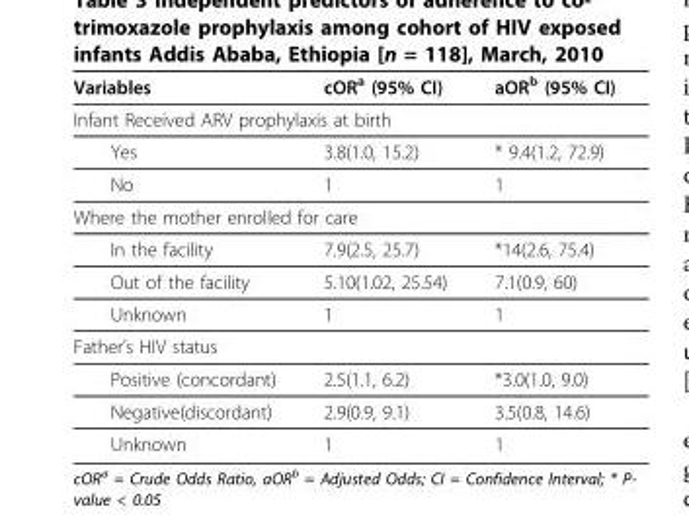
<table><thead><tr><td>Variables</td><td>cOR<sup>a</sup> (95% CI)</td><td>aOR<sup>b</sup> (95% CI)</td></tr></thead><tbody><tr><td colspan="3">Infant Received ARV prophylaxis at birth</td></tr><tr><td>Yes</td><td>3.8(1.0, 15.2)</td><td>* 9.4(1.2, 72.9)</td></tr><tr><td>No</td><td>1</td><td>1</td></tr><tr><td colspan="3">Where the mother enrolled for care</td></tr><tr><td>In the facility</td><td>7.9(2.5, 25.7)</td><td>*14(2.6, 75.4)</td></tr><tr><td>Out of the facility</td><td>5.10(1.02, 25.54)</td><td>7.1(0.9, 60)</td></tr><tr><td>Unknown</td><td>1</td><td>1</td></tr><tr><td colspan="3">Father’s HIV status</td></tr><tr><td>Positive (concordant)</td><td>2.5(1.1, 6.2)</td><td>*3.0(1.0, 9.0)</td></tr><tr><td>Negative(discordant)</td><td>2.9(0.9, 9.1)</td><td>3.5(0.8, 14.6)</td></tr><tr><td>Unknown</td><td>1</td><td>1</td></tr></tbody></table>